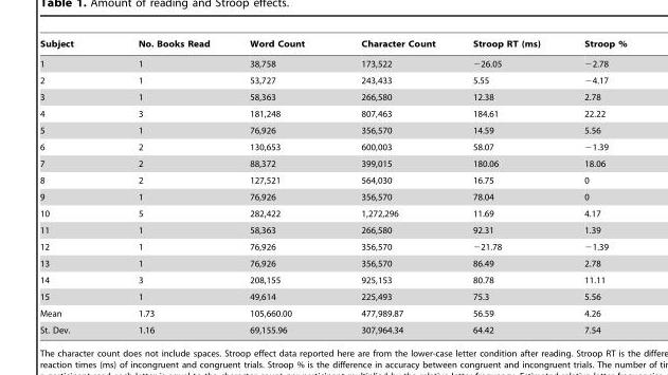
<table><thead><tr><td>Subject</td><td>No. Books Read</td><td>Word Count</td><td>Character Count</td><td>Stroop RT (ms)</td><td>Stroop %</td></tr></thead><tbody><tr><td>1</td><td>1</td><td>38,758</td><td>173,522</td><td>−26.05</td><td>−2.78</td></tr><tr><td>2</td><td>1</td><td>53,727</td><td>243,433</td><td>5.55</td><td>−4.17</td></tr><tr><td>3</td><td>1</td><td>58,363</td><td>266,580</td><td>12.38</td><td>2.78</td></tr><tr><td>4</td><td>3</td><td>181,248</td><td>807,463</td><td>184.61</td><td>22.22</td></tr><tr><td>5</td><td>1</td><td>76,926</td><td>356,570</td><td>14.59</td><td>5.56</td></tr><tr><td>6</td><td>2</td><td>130,653</td><td>600,003</td><td>58.07</td><td>−1.39</td></tr><tr><td>7</td><td>2</td><td>88,372</td><td>399,015</td><td>180.06</td><td>18.06</td></tr><tr><td>8</td><td>2</td><td>127,521</td><td>564,030</td><td>16.75</td><td>0</td></tr><tr><td>9</td><td>1</td><td>76,926</td><td>356,570</td><td>78.04</td><td>0</td></tr><tr><td>10</td><td>5</td><td>282,422</td><td>1,272,296</td><td>11.69</td><td>4.17</td></tr><tr><td>11</td><td>1</td><td>58,363</td><td>266,580</td><td>92.31</td><td>1.39</td></tr><tr><td>12</td><td>1</td><td>76,926</td><td>356,570</td><td>−21.78</td><td>−1.39</td></tr><tr><td>13</td><td>1</td><td>76,926</td><td>356,570</td><td>86.49</td><td>2.78</td></tr><tr><td>14</td><td>3</td><td>208,155</td><td>925,153</td><td>80.78</td><td>11.11</td></tr><tr><td>15</td><td>1</td><td>49,614</td><td>225,493</td><td>75.3</td><td>5.56</td></tr><tr><td>Mean</td><td>1.73</td><td>105,660.00</td><td>477,989.87</td><td>56.59</td><td>4.26</td></tr><tr><td>St. Dev.</td><td>1.16</td><td>69,155.96</td><td>307,964.34</td><td>64.42</td><td>7.54</td></tr></tbody></table>